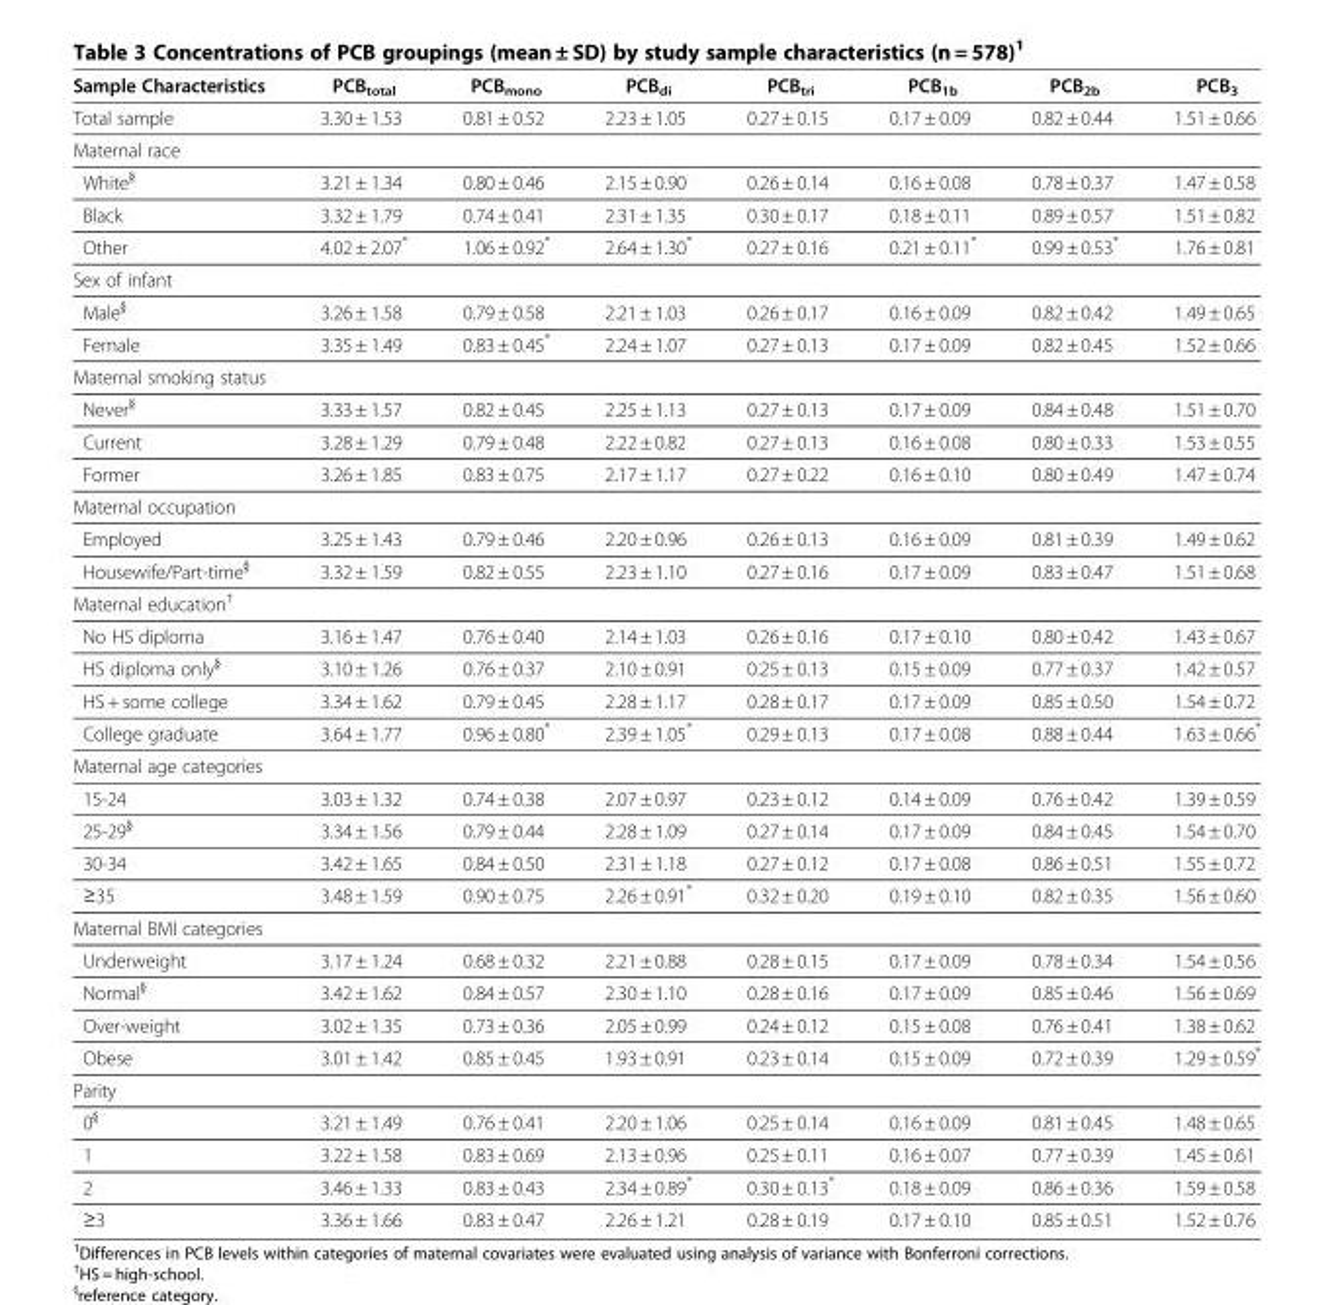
<table><thead><tr><td>Sample Characteristics</td><td>PCB<sub>total</sub></td><td>PCB<sub>mono</sub></td><td>PCB<sub>di</sub></td><td>PCB<sub>tri</sub></td><td>PCB<sub>1b</sub></td><td>PCB<sub>2b</sub></td><td>PCB<sub>3</sub></td></tr></thead><tbody><tr><td>Total sample</td><td>3.30 ± 1.53</td><td>0.81 ± 0.52</td><td>2.23 ± 1.05</td><td>0.27 ± 0.15</td><td>0.17 ± 0.09</td><td>0.82 ± 0.44</td><td>1.51 ± 0.66</td></tr><tr><td colspan="8">Maternal race</td></tr><tr><td>White<sup>§</sup></td><td>3.21 ± 1.34</td><td>0.80 ± 0.46</td><td>2.15 ± 0.90</td><td>0.26 ± 0.14</td><td>0.16 ± 0.08</td><td>0.78 ± 0.37</td><td>1.47 ± 0.58</td></tr><tr><td>Black</td><td>3.32 ± 1.79</td><td>0.74 ± 0.41</td><td>2.31 ± 1.35</td><td>0.30 ± 0.17</td><td>0.18 ± 0.11</td><td>0.89 ± 0.57</td><td>1.51 ± 0.82</td></tr><tr><td>Other</td><td>4.02 ± 2.07*</td><td>1.06 ± 0.92*</td><td>2.64 ± 1.30*</td><td>0.27 ± 0.16</td><td>0.21 ± 0.11*</td><td>0.99 ± 0.53*</td><td>1.76 ± 0.81</td></tr><tr><td colspan="8">Sex of infant</td></tr><tr><td>Male<sup>§</sup></td><td>3.26 ± 1.58</td><td>0.79 ± 0.58</td><td>2.21 ± 1.03</td><td>0.26 ± 0.17</td><td>0.16 ± 0.09</td><td>0.82 ± 0.42</td><td>1.49 ± 0.65</td></tr><tr><td>Female</td><td>3.35 ± 1.49</td><td>0.83 ± 0.45*</td><td>2.24 ± 1.07</td><td>0.27 ± 0.13</td><td>0.17 ± 0.09</td><td>0.82 ± 0.45</td><td>1.52 ± 0.66</td></tr><tr><td colspan="8">Maternal smoking status</td></tr><tr><td>Never<sup>§</sup></td><td>3.33 ± 1.57</td><td>0.82 ± 0.45</td><td>2.25 ± 1.13</td><td>0.27 ± 0.13</td><td>0.17 ± 0.09</td><td>0.84 ± 0.48</td><td>1.51 ± 0.70</td></tr><tr><td>Current</td><td>3.28 ± 1.29</td><td>0.79 ± 0.48</td><td>2.22 ± 0.82</td><td>0.27 ± 0.13</td><td>0.16 ± 0.08</td><td>0.80 ± 0.33</td><td>1.53 ± 0.55</td></tr><tr><td>Former</td><td>3.26 ± 1.85</td><td>0.83 ± 0.75</td><td>2.17 ± 1.17</td><td>0.27 ± 0.22</td><td>0.16 ± 0.10</td><td>0.80 ± 0.49</td><td>1.47 ± 0.74</td></tr><tr><td colspan="8">Maternal occupation</td></tr><tr><td>Employed</td><td>3.25 ± 1.43</td><td>0.79 ± 0.46</td><td>2.20 ± 0.96</td><td>0.26 ± 0.13</td><td>0.16 ± 0.09</td><td>0.81 ± 0.39</td><td>1.49 ± 0.62</td></tr><tr><td>Housewife/Part-time<sup>§</sup></td><td>3.32 ± 1.59</td><td>0.82 ± 0.55</td><td>2.23 ± 1.10</td><td>0.27 ± 0.16</td><td>0.17 ± 0.09</td><td>0.83 ± 0.47</td><td>1.51 ± 0.68</td></tr><tr><td colspan="8">Maternal education<sup>†</sup></td></tr><tr><td>No HS diploma</td><td>3.16 ± 1.47</td><td>0.76 ± 0.40</td><td>2.14 ± 1.03</td><td>0.26 ± 0.16</td><td>0.17 ± 0.10</td><td>0.80 ± 0.42</td><td>1.43 ± 0.67</td></tr><tr><td>HS diploma only<sup>§</sup></td><td>3.10 ± 1.26</td><td>0.76 ± 0.37</td><td>2.10 ± 0.91</td><td>0.25 ± 0.13</td><td>0.15 ± 0.09</td><td>0.77 ± 0.37</td><td>1.42 ± 0.57</td></tr><tr><td>HS + some college</td><td>3.34 ± 1.62</td><td>0.79 ± 0.45</td><td>2.28 ± 1.17</td><td>0.28 ± 0.17</td><td>0.17 ± 0.09</td><td>0.85 ± 0.50</td><td>1.54 ± 0.72</td></tr><tr><td>College graduate</td><td>3.64 ± 1.77</td><td>0.96 ± 0.80*</td><td>2.39 ± 1.05*</td><td>0.29 ± 0.13</td><td>0.17 ± 0.08</td><td>0.88 ± 0.44</td><td>1.63 ± 0.66*</td></tr><tr><td colspan="8">Maternal age categories</td></tr><tr><td>15-24</td><td>3.03 ± 1.32</td><td>0.74 ± 0.38</td><td>2.07 ± 0.97</td><td>0.23 ± 0.12</td><td>0.14 ± 0.09</td><td>0.76 ± 0.42</td><td>1.39 ± 0.59</td></tr><tr><td>25-29<sup>§</sup></td><td>3.34 ± 1.56</td><td>0.79 ± 0.44</td><td>2.28 ± 1.09</td><td>0.27 ± 0.14</td><td>0.17 ± 0.09</td><td>0.84 ± 0.45</td><td>1.54 ± 0.70</td></tr><tr><td>30-34</td><td>3.42 ± 1.65</td><td>0.84 ± 0.50</td><td>2.31 ± 1.18</td><td>0.27 ± 0.12</td><td>0.17 ± 0.08</td><td>0.86 ± 0.51</td><td>1.55 ± 0.72</td></tr><tr><td>≥35</td><td>3.48 ± 1.59</td><td>0.90 ± 0.75</td><td>2.26 ± 0.91*</td><td>0.32 ± 0.20</td><td>0.19 ± 0.10</td><td>0.82 ± 0.35</td><td>1.56 ± 0.60</td></tr><tr><td colspan="8">Maternal BMI categories</td></tr><tr><td>Underweight</td><td>3.17 ± 1.24</td><td>0.68 ± 0.32</td><td>2.21 ± 0.88</td><td>0.28 ± 0.15</td><td>0.17 ± 0.09</td><td>0.78 ± 0.34</td><td>1.54 ± 0.56</td></tr><tr><td>Normal<sup>§</sup></td><td>3.42 ± 1.62</td><td>0.84 ± 0.57</td><td>2.30 ± 1.10</td><td>0.28 ± 0.16</td><td>0.17 ± 0.09</td><td>0.85 ± 0.46</td><td>1.56 ± 0.69</td></tr><tr><td>Over-weight</td><td>3.02 ± 1.35</td><td>0.73 ± 0.36</td><td>2.05 ± 0.99</td><td>0.24 ± 0.12</td><td>0.15 ± 0.08</td><td>0.76 ± 0.41</td><td>1.38 ± 0.62</td></tr><tr><td>Obese</td><td>3.01 ± 1.42</td><td>0.85 ± 0.45</td><td>1.93 ± 0.91</td><td>0.23 ± 0.14</td><td>0.15 ± 0.09</td><td>0.72 ± 0.39</td><td>1.29 ± 0.59*</td></tr><tr><td colspan="8">Parity</td></tr><tr><td>0<sup>§</sup></td><td>3.21 ± 1.49</td><td>0.76 ± 0.41</td><td>2.20 ± 1.06</td><td>0.25 ± 0.14</td><td>0.16 ± 0.09</td><td>0.81 ± 0.45</td><td>1.48 ± 0.65</td></tr><tr><td>1</td><td>3.22 ± 1.58</td><td>0.83 ± 0.69</td><td>2.13 ± 0.96</td><td>0.25 ± 0.11</td><td>0.16 ± 0.07</td><td>0.77 ± 0.39</td><td>1.45 ± 0.61</td></tr><tr><td>2</td><td>3.46 ± 1.33</td><td>0.83 ± 0.43</td><td>2.34 ± 0.89*</td><td>0.30 ± 0.13*</td><td>0.18 ± 0.09</td><td>0.86 ± 0.36</td><td>1.59 ± 0.58</td></tr><tr><td>≥3</td><td>3.36 ± 1.66</td><td>0.83 ± 0.47</td><td>2.26 ± 1.21</td><td>0.28 ± 0.19</td><td>0.17 ± 0.10</td><td>0.85 ± 0.51</td><td>1.52 ± 0.76</td></tr></tbody></table>